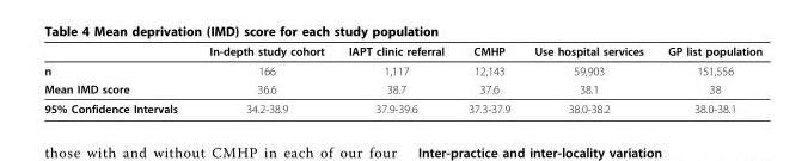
<table><thead><tr><td></td><td>In-depth study cohort</td><td>IAPT clinic referral</td><td>CMHP</td><td>Use hospital services</td><td>GP list population</td></tr></thead><tbody><tr><td>n</td><td>166</td><td>1,117</td><td>12,143</td><td>59,903</td><td>151,556</td></tr><tr><td>Mean IMD score</td><td>36.6</td><td>38.7</td><td>37.6</td><td>38.1</td><td>38</td></tr><tr><td>95% Confidence Intervals</td><td>34.2-38.9</td><td>37.9-39.6</td><td>37.3-37.9</td><td>38.0-38.2</td><td>38.0-38.1</td></tr></tbody></table>